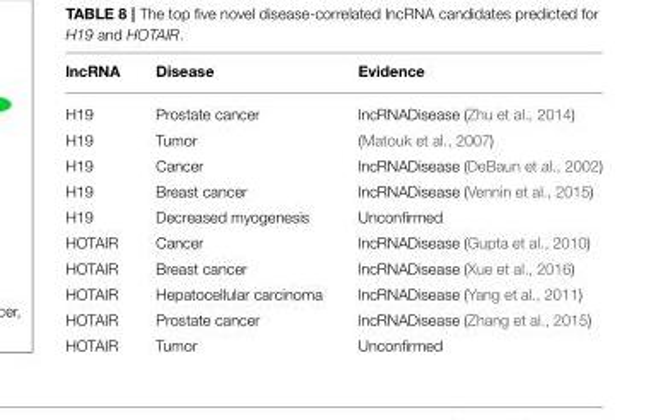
<table><thead><tr><td>lncRNA</td><td>Disease</td><td>Evidence</td></tr></thead><tbody><tr><td>H19</td><td>Prostate cancer</td><td>lncRNADisease (Zhu et al., 2014)</td></tr><tr><td>H19</td><td>Tumor</td><td>(Matouk et al., 2007)</td></tr><tr><td>H19</td><td>Cancer</td><td>lncRNADisease (DeBaun et al., 2002)</td></tr><tr><td>H19</td><td>Breast cancer</td><td>lncRNADisease (Vennin et al., 2015)</td></tr><tr><td>H19</td><td>Decreased myogenesis</td><td>Unconfirmed</td></tr><tr><td>HOTAIR</td><td>Cancer</td><td>lncRNADisease (Gupta et al., 2010)</td></tr><tr><td>HOTAIR</td><td>Breast cancer</td><td>lncRNADisease (Xue et al., 2016)</td></tr><tr><td>HOTAIR</td><td>Hepatocellular carcinoma</td><td>lncRNADisease (Yang et al., 2011)</td></tr><tr><td>HOTAIR</td><td>Prostate cancer</td><td>lncRNADisease (Zhang et al., 2015)</td></tr><tr><td>HOTAIR</td><td>Tumor</td><td>Unconfirmed</td></tr></tbody></table>